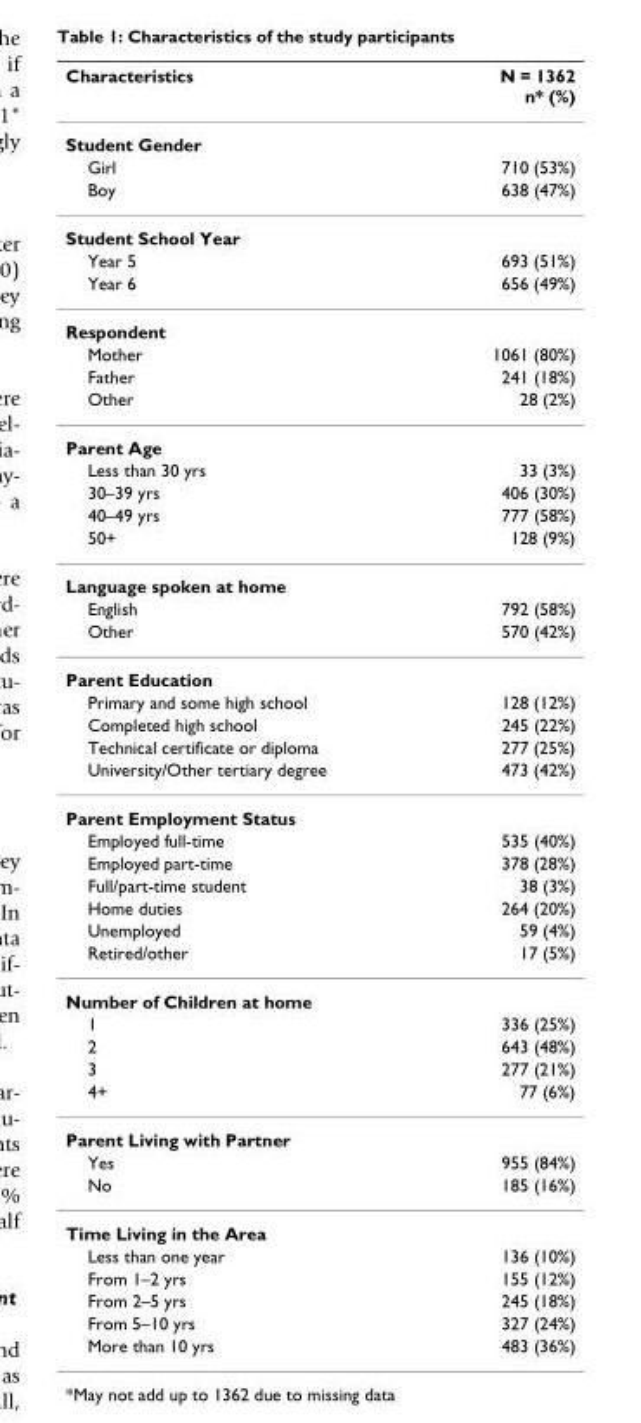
<table><thead><tr><td>Characteristics</td><td>N = 1362 n* (%)</td></tr></thead><tbody><tr><td colspan="2">Student Gender</td></tr><tr><td>Girl</td><td>710 (53%)</td></tr><tr><td>Boy</td><td>638 (47%)</td></tr><tr><td colspan="2">Student School Year</td></tr><tr><td>Year 5</td><td>693 (51%)</td></tr><tr><td>Year 6</td><td>656 (49%)</td></tr><tr><td colspan="2">Respondent</td></tr><tr><td>Mother</td><td>1061 (80%)</td></tr><tr><td>Father</td><td>241 (18%)</td></tr><tr><td>Other</td><td>28 (2%)</td></tr><tr><td colspan="2">Parent Age</td></tr><tr><td>Less than 30 yrs</td><td>33 (3%)</td></tr><tr><td>30–39 yrs</td><td>406 (30%)</td></tr><tr><td>40–49 yrs</td><td>777 (58%)</td></tr><tr><td>50+</td><td>128 (9%)</td></tr><tr><td colspan="2">Language spoken at home</td></tr><tr><td>English</td><td>792 (58%)</td></tr><tr><td>Other</td><td>570 (42%)</td></tr><tr><td colspan="2">Parent Education</td></tr><tr><td>Primary and some high school</td><td>128 (12%)</td></tr><tr><td>Completed high school</td><td>245 (22%)</td></tr><tr><td>Technical certificate or diploma</td><td>277 (25%)</td></tr><tr><td>University/Other tertiary degree</td><td>473 (42%)</td></tr><tr><td colspan="2">Parent Employment Status</td></tr><tr><td>Employed full-time</td><td>535 (40%)</td></tr><tr><td>Employed part-time</td><td>378 (28%)</td></tr><tr><td>Full/part-time student</td><td>38 (3%)</td></tr><tr><td>Home duties</td><td>264 (20%)</td></tr><tr><td>Unemployed</td><td>59 (4%)</td></tr><tr><td>Retired/other</td><td>17 (5%)</td></tr><tr><td colspan="2">Number of Children at home</td></tr><tr><td>1</td><td>336 (25%)</td></tr><tr><td>2</td><td>643 (48%)</td></tr><tr><td>3</td><td>277 (21%)</td></tr><tr><td>4+</td><td>77 (6%)</td></tr><tr><td colspan="2">Parent Living with Partner</td></tr><tr><td>Yes</td><td>955 (84%)</td></tr><tr><td>No</td><td>185 (16%)</td></tr><tr><td colspan="2">Time Living in the Area</td></tr><tr><td>Less than one year</td><td>136 (10%)</td></tr><tr><td>From 1–2 yrs</td><td>155 (12%)</td></tr><tr><td>From 2–5 yrs</td><td>245 (18%)</td></tr><tr><td>From 5–10 yrs</td><td>327 (24%)</td></tr><tr><td>More than 10 yrs</td><td>483 (36%)</td></tr></tbody></table>